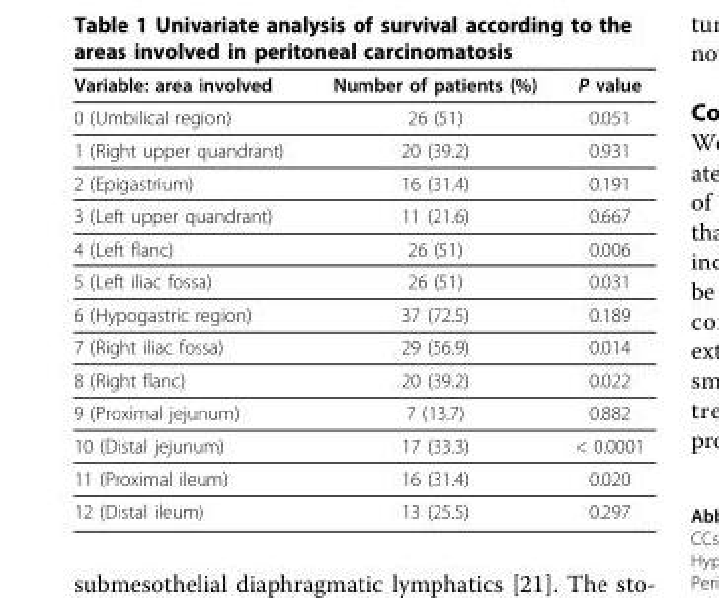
<table><thead><tr><td>Variable: area involved</td><td>Number of patients (%)</td><td>P value</td></tr></thead><tbody><tr><td>0 (Umbilical region)</td><td>26 (51)</td><td>0.051</td></tr><tr><td>1 (Right upper quandrant)</td><td>20 (39.2)</td><td>0.931</td></tr><tr><td>2 (Epigastrium)</td><td>16 (31.4)</td><td>0.191</td></tr><tr><td>3 (Left upper quandrant)</td><td>11 (21.6)</td><td>0.667</td></tr><tr><td>4 (Left flanc)</td><td>26 (51)</td><td>0.006</td></tr><tr><td>5 (Left iliac fossa)</td><td>26 (51)</td><td>0.031</td></tr><tr><td>6 (Hypogastric region)</td><td>37 (72.5)</td><td>0.189</td></tr><tr><td>7 (Right iliac fossa)</td><td>29 (56.9)</td><td>0.014</td></tr><tr><td>8 (Right flanc)</td><td>20 (39.2)</td><td>0.022</td></tr><tr><td>9 (Proximal jejunum)</td><td>7 (13.7)</td><td>0.882</td></tr><tr><td>10 (Distal jejunum)</td><td>17 (33.3)</td><td>&lt; 0.0001</td></tr><tr><td>11 (Proximal ileum)</td><td>16 (31.4)</td><td>0.020</td></tr><tr><td>12 (Distal ileum)</td><td>13 (25.5)</td><td>0.297</td></tr></tbody></table>